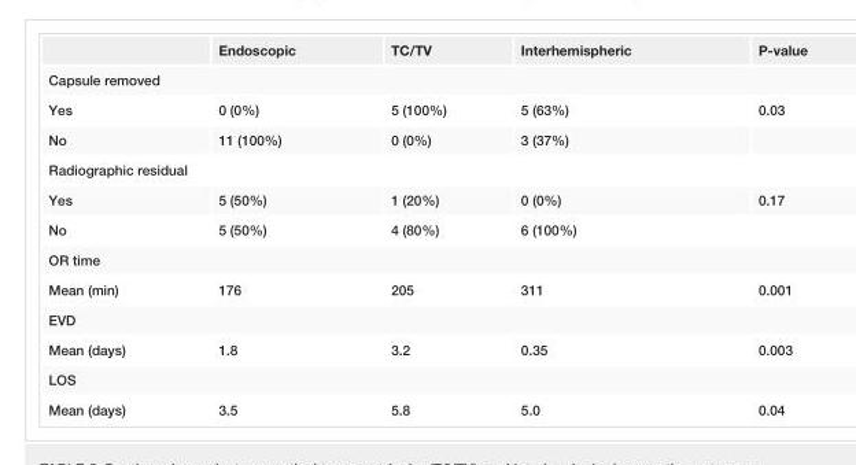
<table><thead><tr><td></td><td>Endoscopic</td><td>TC/TV</td><td>Interhemispheric</td><td>P-value</td></tr></thead><tbody><tr><td colspan="5">Capsule removed</td></tr><tr><td>Yes</td><td>0 (0%)</td><td>5 (100%)</td><td>5 (63%)</td><td>0.03</td></tr><tr><td>No</td><td>11 (100%)</td><td>0 (0%)</td><td>3 (37%)</td><td></td></tr><tr><td colspan="5">Radiographic residual</td></tr><tr><td>Yes</td><td>5 (50%)</td><td>1 (20%)</td><td>0 (0%)</td><td>0.17</td></tr><tr><td>No</td><td>5 (50%)</td><td>4 (80%)</td><td>6 (100%)</td><td></td></tr><tr><td colspan="5">OR time</td></tr><tr><td>Mean (min)</td><td>176</td><td>205</td><td>311</td><td>0.001</td></tr><tr><td colspan="5">EVD</td></tr><tr><td>Mean (days)</td><td>1.8</td><td>3.2</td><td>0.35</td><td>0.003</td></tr><tr><td colspan="5">LOS</td></tr><tr><td>Mean (days)</td><td>3.5</td><td>5.8</td><td>5.0</td><td>0.04</td></tr></tbody></table>